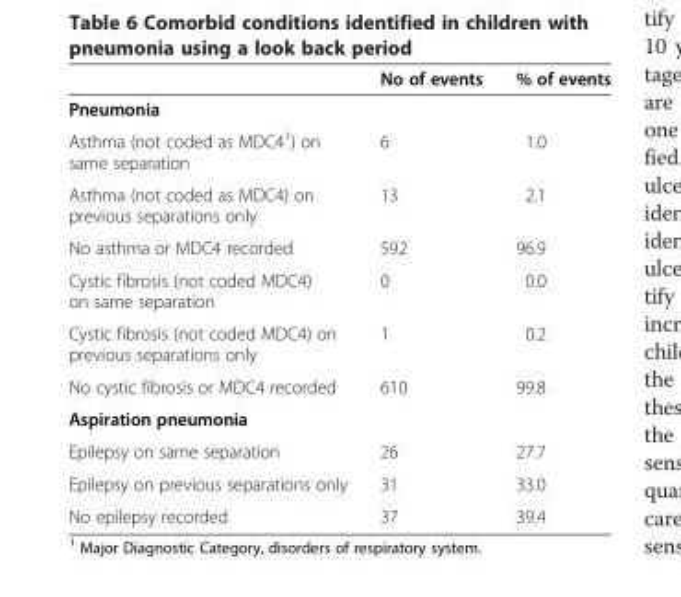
<table><thead><tr><td></td><td>No of events</td><td>% of events</td></tr></thead><tbody><tr><td colspan="3">Pneumonia</td></tr><tr><td>Asthma (not coded as MDC4<sup>1</sup>) on same separation</td><td>6</td><td>1.0</td></tr><tr><td>Asthma (not coded as MDC4) on previous separations only</td><td>13</td><td>2.1</td></tr><tr><td>No asthma or MDC4 recorded</td><td>592</td><td>96.9</td></tr><tr><td>Cystic fibrosis (not coded MDC4) on same separation</td><td>0</td><td>0.0</td></tr><tr><td>Cystic fibrosis (not coded MDC4) on previous separations only</td><td>1</td><td>0.2</td></tr><tr><td>No cystic fibrosis or MDC4 recorded</td><td>610</td><td>99.8</td></tr><tr><td colspan="3">Aspiration pneumonia</td></tr><tr><td>Epilepsy on same separation</td><td>26</td><td>27.7</td></tr><tr><td>Epilepsy on previous separations only</td><td>31</td><td>33.0</td></tr><tr><td>No epilepsy recorded</td><td>37</td><td>39.4</td></tr></tbody></table>